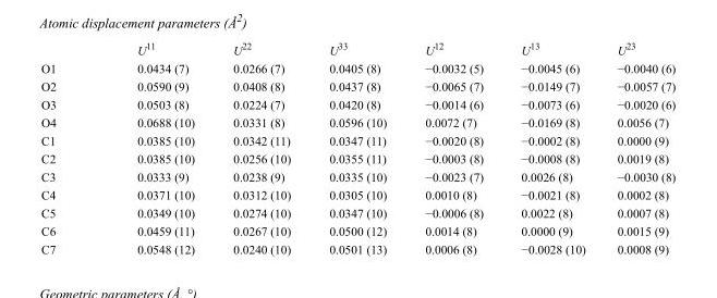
<table><thead><tr><td></td><td>U<sup>11</sup></td><td>U<sup>22</sup></td><td>U<sup>33</sup></td><td>U<sup>12</sup></td><td>U<sup>13</sup></td><td>U<sup>23</sup></td></tr></thead><tbody><tr><td>O1</td><td>0.0434 (7)</td><td>0.0266 (7)</td><td>0.0405 (8)</td><td>−0.0032 (5)</td><td>−0.0045 (6)</td><td>−0.0040 (6)</td></tr><tr><td>O2</td><td>0.0590 (9)</td><td>0.0408 (8)</td><td>0.0437 (8)</td><td>−0.0065 (7)</td><td>−0.0149 (7)</td><td>−0.0057 (7)</td></tr><tr><td>O3</td><td>0.0503 (8)</td><td>0.0224 (7)</td><td>0.0420 (8)</td><td>−0.0014 (6)</td><td>−0.0073 (6)</td><td>−0.0020 (6)</td></tr><tr><td>O4</td><td>0.0688 (10)</td><td>0.0331 (8)</td><td>0.0596 (10)</td><td>0.0072 (7)</td><td>−0.0169 (8)</td><td>0.0056 (7)</td></tr><tr><td>C1</td><td>0.0385 (10)</td><td>0.0342 (11)</td><td>0.0347 (11)</td><td>−0.0020 (8)</td><td>−0.0002 (8)</td><td>0.0000 (9)</td></tr><tr><td>C2</td><td>0.0385 (10)</td><td>0.0256 (10)</td><td>0.0355 (11)</td><td>−0.0003 (8)</td><td>−0.0008 (8)</td><td>0.0019 (8)</td></tr><tr><td>C3</td><td>0.0333 (9)</td><td>0.0238 (9)</td><td>0.0335 (10)</td><td>−0.0023 (7)</td><td>0.0026 (8)</td><td>−0.0030 (8)</td></tr><tr><td>C4</td><td>0.0371 (10)</td><td>0.0312 (10)</td><td>0.0305 (10)</td><td>0.0010 (8)</td><td>−0.0021 (8)</td><td>0.0002 (8)</td></tr><tr><td>C5</td><td>0.0349 (10)</td><td>0.0274 (10)</td><td>0.0347 (10)</td><td>−0.0006 (8)</td><td>0.0022 (8)</td><td>0.0007 (8)</td></tr><tr><td>C6</td><td>0.0459 (11)</td><td>0.0267 (10)</td><td>0.0500 (12)</td><td>0.0014 (8)</td><td>0.0000 (9)</td><td>0.0015 (9)</td></tr><tr><td>C7</td><td>0.0548 (12)</td><td>0.0240 (10)</td><td>0.0501 (13)</td><td>0.0006 (8)</td><td>−0.0028 (10)</td><td>0.0008 (9)</td></tr></tbody></table>